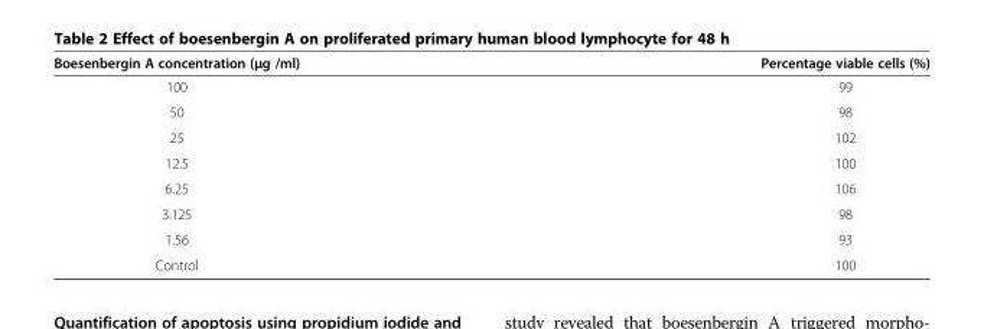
<table><thead><tr><td>Boesenbergin A concentration (μg /ml)</td><td>Percentage viable cells (%)</td></tr></thead><tbody><tr><td>100</td><td>99</td></tr><tr><td>50</td><td>98</td></tr><tr><td>25</td><td>102</td></tr><tr><td>12.5</td><td>100</td></tr><tr><td>6.25</td><td>106</td></tr><tr><td>3.125</td><td>98</td></tr><tr><td>1.56</td><td>93</td></tr><tr><td>Control</td><td>100</td></tr></tbody></table>